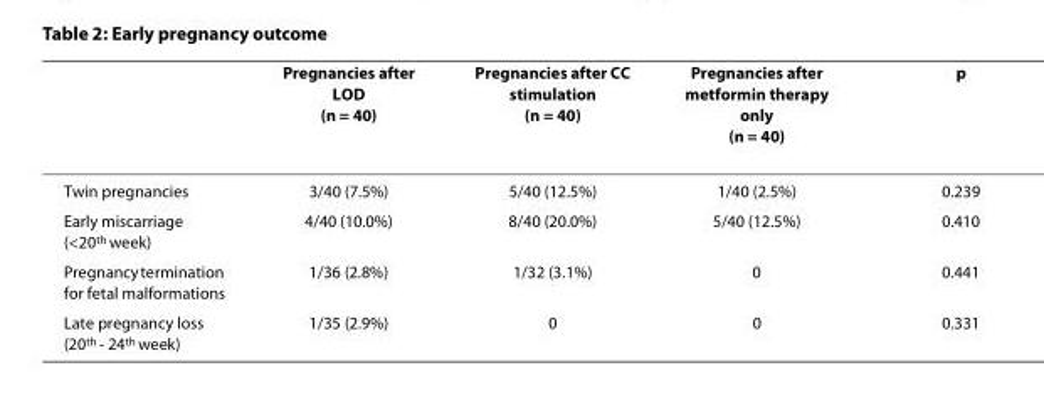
<table><thead><tr><td></td><td>Pregnancies after LOD (n = 40)</td><td>Pregnancies after CC stimulation (n = 40)</td><td>Pregnancies after metformin therapy only (n = 40)</td><td>p</td></tr></thead><tbody><tr><td>Twin pregnancies</td><td>3/40 (7.5%)</td><td>5/40 (12.5%)</td><td>1/40 (2.5%)</td><td>0.239</td></tr><tr><td>Early miscarriage (&lt;20<sup>th</sup> week)</td><td>4/40 (10.0%)</td><td>8/40 (20.0%)</td><td>5/40 (12.5%)</td><td>0.410</td></tr><tr><td>Pregnancy termination for fetal malformations</td><td>1/36 (2.8%)</td><td>1/32 (3.1%)</td><td>0</td><td>0.441</td></tr><tr><td>Late pregnancy loss (20<sup>th</sup> - 24<sup>th</sup> week)</td><td>1/35 (2.9%)</td><td>0</td><td>0</td><td>0.331</td></tr></tbody></table>